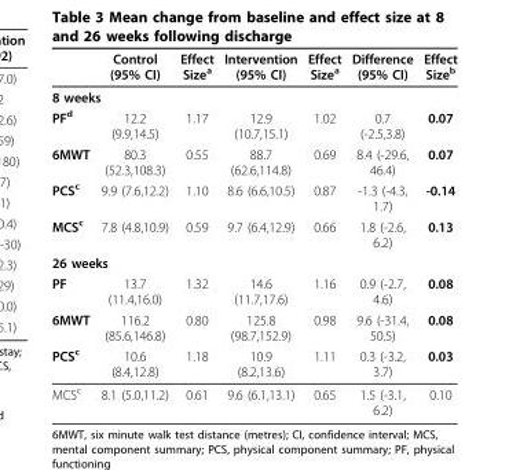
<table><thead><tr><td></td><td>Control (95% CI)</td><td>Effect Size<sup>a</sup></td><td>Intervention (95% CI)</td><td>Effect Size<sup>a</sup></td><td>Difference (95% CI)</td><td>Effect Size<sup>b</sup></td></tr></thead><tbody><tr><td colspan="7">8 weeks</td></tr><tr><td>PF<sup>d</sup></td><td>12.2 (9.9,14.5)</td><td>1.17</td><td>12.9 (10.7,15.1)</td><td>1.02</td><td>0.7 (-2.5,3.8)</td><td>0.07</td></tr><tr><td>6MWT</td><td>80.3 (52.3,108.3)</td><td>0.55</td><td>88.7 (62.6,114.8)</td><td>0.69</td><td>8.4 (-29.6, 46.4)</td><td>0.07</td></tr><tr><td>PCS<sup>c</sup></td><td>9.9 (7.6,12.2)</td><td>1.10</td><td>8.6 (6.6,10.5)</td><td>0.87</td><td>-1.3 (-4.3, 1.7)</td><td>-0.14</td></tr><tr><td>MCS<sup>c</sup></td><td>7.8 (4.8,10.9)</td><td>0.59</td><td>9.7 (6.4,12.9)</td><td>0.66</td><td>1.8 (-2.6, 6.2)</td><td>0.13</td></tr><tr><td colspan="7">26 weeks</td></tr><tr><td>PF</td><td>13.7 (11.4,16.0)</td><td>1.32</td><td>14.6 (11.7,17.6)</td><td>1.16</td><td>0.9 (-2.7, 4.6)</td><td>0.08</td></tr><tr><td>6MWT</td><td>116.2 (85.6,146.8)</td><td>0.80</td><td>125.8 (98.7,152.9)</td><td>0.98</td><td>9.6 (-31.4, 50.5)</td><td>0.08</td></tr><tr><td>PCS<sup>c</sup></td><td>10.6 (8.4,12.8)</td><td>1.18</td><td>10.9 (8.2,13.6)</td><td>1.11</td><td>0.3 (-3.2, 3.7)</td><td>0.03</td></tr><tr><td>MCS<sup>c</sup></td><td>8.1 (5.0,11.2)</td><td>0.61</td><td>9.6 (6.1,13.1)</td><td>0.65</td><td>1.5 (-3.1, 6.2)</td><td>0.10</td></tr></tbody></table>